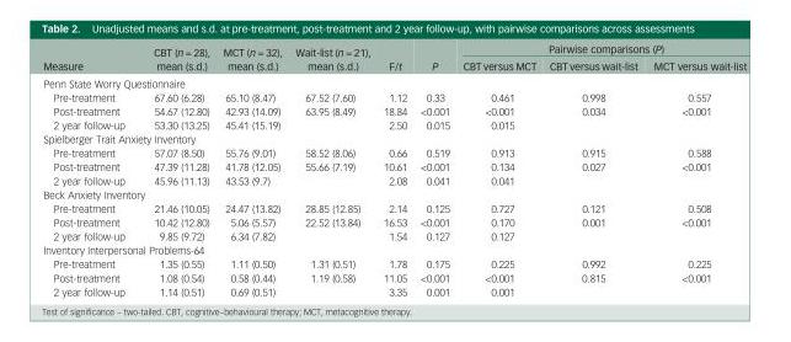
<table><thead><tr><td rowspan="2">Measure</td><td rowspan="2">CBT (n = 28), mean (s.d.)</td><td rowspan="2">MCT (n = 32), mean (s.d.)</td><td rowspan="2">Wait-list (n = 21), mean (s.d.)</td><td rowspan="2">F/t</td><td rowspan="2">P</td><td colspan="3">Pairwise comparisons (P)</td></tr><tr><td>CBT versus MCT</td><td>CBT versus wait-list</td><td>MCT versus wait-list</td></tr></thead><tbody><tr><td colspan="9">Penn State Worry Questionnaire</td></tr><tr><td>Pre-treatment</td><td>67.60 (6.28)</td><td>65.10 (8.47)</td><td>67.52 (7.60)</td><td>1.12</td><td>0.33</td><td>0.461</td><td>0.998</td><td>0.557</td></tr><tr><td>Post-treatment</td><td>54.67 (12.80)</td><td>42.93 (14.09)</td><td>63.95 (8.49)</td><td>18.84</td><td>&lt;0.001</td><td>&lt;0.001</td><td>0.034</td><td>&lt;0.001</td></tr><tr><td>2 year follow-up</td><td>53.30 (13.25)</td><td>45.41 (15.19)</td><td></td><td>2.50</td><td>0.015</td><td>0.015</td><td></td><td></td></tr><tr><td colspan="9">Spielberger Trait Anxiety Inventory</td></tr><tr><td>Pre-treatment</td><td>57.07 (8.50)</td><td>55.76 (9.01)</td><td>58.52 (8.06)</td><td>0.66</td><td>0.519</td><td>0.913</td><td>0.915</td><td>0.588</td></tr><tr><td>Post-treatment</td><td>47.39 (11.28)</td><td>41.78 (12.05)</td><td>55.66 (7.19)</td><td>10.61</td><td>&lt;0.001</td><td>0.134</td><td>0.027</td><td>&lt;0.001</td></tr><tr><td>2 year follow-up</td><td>45.96 (11.13)</td><td>43.53 (9.7)</td><td></td><td>2.08</td><td>0.041</td><td>0.041</td><td></td><td></td></tr><tr><td colspan="9">Beck Anxiety Inventory</td></tr><tr><td>Pre-treatment</td><td>21.46 (10.05)</td><td>24.47 (13.82)</td><td>28.85 (12.85)</td><td>2.14</td><td>0.125</td><td>0.727</td><td>0.121</td><td>0.508</td></tr><tr><td>Post-treatment</td><td>10.42 (12.80)</td><td>5.06 (5.57)</td><td>22.52 (13.84)</td><td>16.53</td><td>&lt;0.001</td><td>0.170</td><td>0.001</td><td>&lt;0.001</td></tr><tr><td>2 year follow-up</td><td>9.85 (9.72)</td><td>6.34 (7.82)</td><td></td><td>1.54</td><td>0.127</td><td>0.127</td><td></td><td></td></tr><tr><td colspan="9">Inventory Interpersonal Problems-64</td></tr><tr><td>Pre-treatment</td><td>1.35 (0.55)</td><td>1.11 (0.50)</td><td>1.31 (0.51)</td><td>1.78</td><td>0.175</td><td>0.225</td><td>0.992</td><td>0.225</td></tr><tr><td>Post-treatment</td><td>1.08 (0.54)</td><td>0.58 (0.44)</td><td>1.19 (0.58)</td><td>11.05</td><td>&lt;0.001</td><td>&lt;0.001</td><td>0.815</td><td>&lt;0.001</td></tr><tr><td>2 year follow-up</td><td>1.14 (0.51)</td><td>0.69 (0.51)</td><td></td><td>3.35</td><td>0.001</td><td>0.001</td><td></td><td></td></tr></tbody></table>